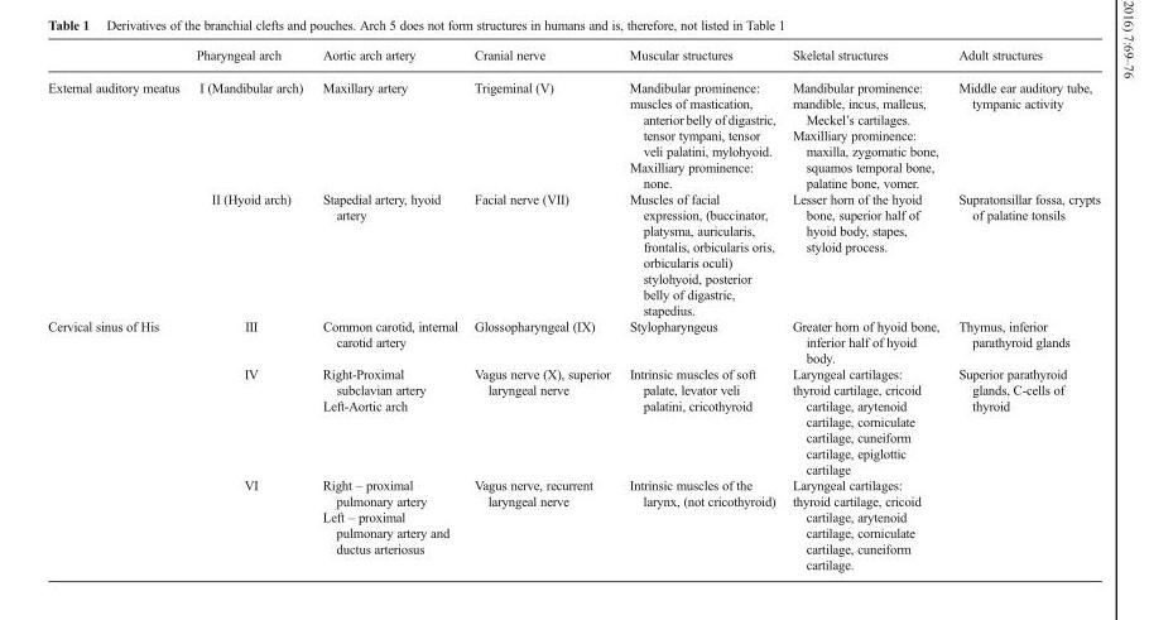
<table><thead><tr><td></td><td>Pharyngeal arch</td><td>Aortic arch artery</td><td>Cranial nerve</td><td>Muscular structures</td><td>Skeletal structures</td><td>Adult structures</td></tr></thead><tbody><tr><td rowspan="2">External auditory meatus</td><td>I (Mandibular arch)</td><td>Maxillary artery</td><td>Trigeminal (V)</td><td>Mandibular prominence: muscles of mastication, anterior belly of digastric, tensor tympani, tensor veli palatini, mylohyoid. Maxilliary prominence: none.</td><td>Mandibular prominence: mandible, incus, malleus, Meckel’s cartilages. Maxilliary prominence: maxilla, zygomatic bone, squamos temporal bone, palatine bone, vomer.</td><td>Middle ear auditory tube, tympanic activity</td></tr><tr><td>II (Hyoid arch)</td><td>Stapedial artery, hyoid artery</td><td>Facial nerve (VII)</td><td>Muscles of facial expression, (buccinator, platysma, auricularis, frontalis, orbicularis oris, orbicularis oculi) stylohyoid, posterior belly of digastric, stapedius.</td><td>Lesser horn of the hyoid bone, superior half of hyoid body, stapes, styloid process.</td><td>Supratonsillar fossa, crypts of palatine tonsils</td></tr><tr><td rowspan="3">Cervical sinus of His</td><td>III</td><td>Common carotid, internal carotid artery</td><td>Glossopharyngeal (IX)</td><td>Stylopharyngeus</td><td>Greater horn of hyoid bone, inferior half of hyoid body.</td><td>Thymus, inferior parathyroid glands</td></tr><tr><td>IV</td><td>Right-Proximal subclavian artery Left-Aortic arch</td><td>Vagus nerve (X), superior laryngeal nerve</td><td>Intrinsic muscles of soft palate, levator veli palatini, cricothyroid</td><td>Laryngeal cartilages: thyroid cartilage, cricoid cartilage, arytenoid cartilage, corniculate cartilage, cuneiform cartilage, epiglottic cartilage</td><td>Superior parathyroid glands, C-cells of thyroid</td></tr><tr><td>VI</td><td>Right – proximal pulmonary artery Left – proximal pulmonary artery and ductus arteriosus</td><td>Vagus nerve, recurrent laryngeal nerve</td><td>Intrinsic muscles of the larynx, (not cricothyroid)</td><td>Laryngeal cartilages: thyroid cartilage, cricoid cartilage, arytenoid cartilage, corniculate cartilage, cuneiform cartilage.</td><td></td></tr></tbody></table>